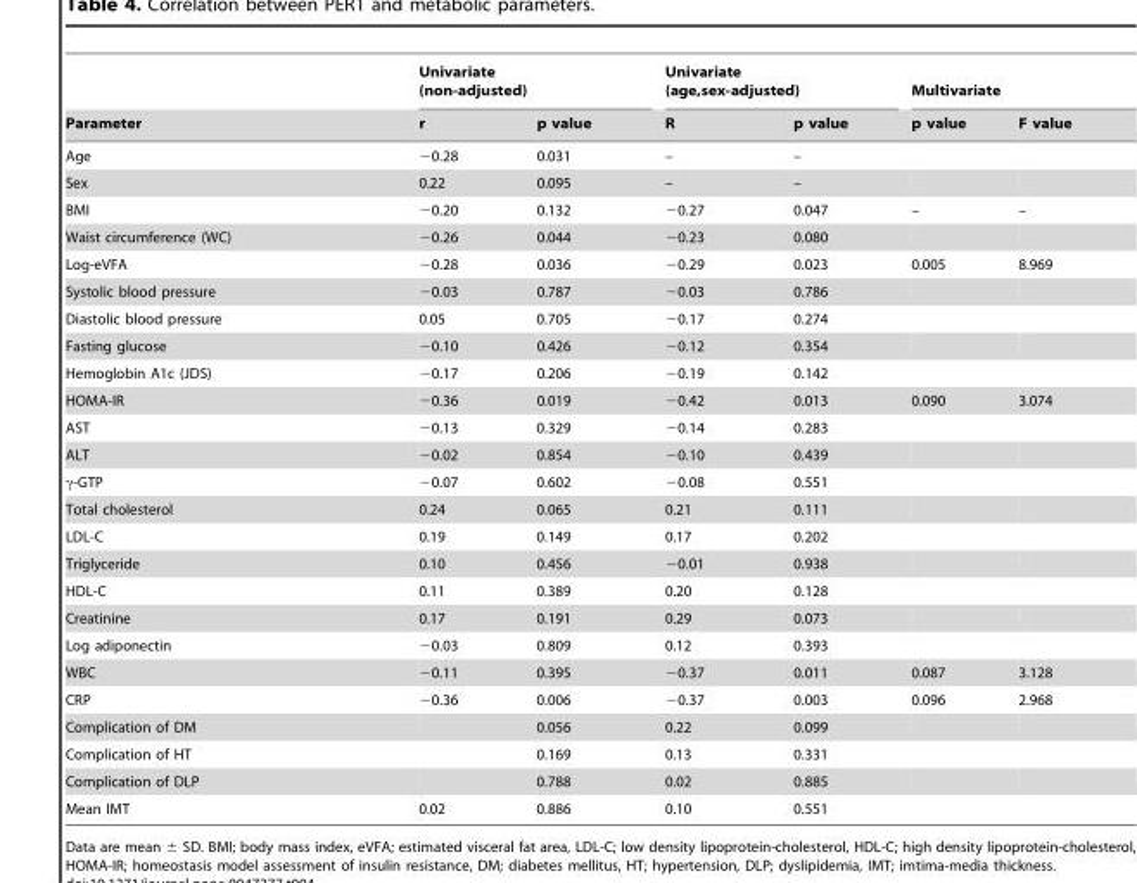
<table><thead><tr><td rowspan="2">Parameter</td><td colspan="2">Univariate (non-adjusted)</td><td colspan="2">Univariate (age,sex-adjusted)</td><td colspan="2">Multivariate</td></tr><tr><td>r</td><td>p value</td><td>R</td><td>p value</td><td>p value</td><td>F value</td></tr></thead><tbody><tr><td>Age</td><td>−0.28</td><td>0.031</td><td>–</td><td>–</td><td></td><td></td></tr><tr><td>Sex</td><td>0.22</td><td>0.095</td><td>–</td><td>–</td><td></td><td></td></tr><tr><td>BMI</td><td>−0.20</td><td>0.132</td><td>−0.27</td><td>0.047</td><td>–</td><td>–</td></tr><tr><td>Waist circumference (WC)</td><td>−0.26</td><td>0.044</td><td>−0.23</td><td>0.080</td><td></td><td></td></tr><tr><td>Log-eVFA</td><td>−0.28</td><td>0.036</td><td>−0.29</td><td>0.023</td><td>0.005</td><td>8.969</td></tr><tr><td>Systolic blood pressure</td><td>−0.03</td><td>0.787</td><td>−0.03</td><td>0.786</td><td></td><td></td></tr><tr><td>Diastolic blood pressure</td><td>0.05</td><td>0.705</td><td>−0.17</td><td>0.274</td><td></td><td></td></tr><tr><td>Fasting glucose</td><td>−0.10</td><td>0.426</td><td>−0.12</td><td>0.354</td><td></td><td></td></tr><tr><td>Hemoglobin A1c (JDS)</td><td>−0.17</td><td>0.206</td><td>−0.19</td><td>0.142</td><td></td><td></td></tr><tr><td>HOMA-IR</td><td>−0.36</td><td>0.019</td><td>−0.42</td><td>0.013</td><td>0.090</td><td>3.074</td></tr><tr><td>AST</td><td>−0.13</td><td>0.329</td><td>−0.14</td><td>0.283</td><td></td><td></td></tr><tr><td>ALT</td><td>−0.02</td><td>0.854</td><td>−0.10</td><td>0.439</td><td></td><td></td></tr><tr><td>γ-GTP</td><td>−0.07</td><td>0.602</td><td>−0.08</td><td>0.551</td><td></td><td></td></tr><tr><td>Total cholesterol</td><td>0.24</td><td>0.065</td><td>0.21</td><td>0.111</td><td></td><td></td></tr><tr><td>LDL-C</td><td>0.19</td><td>0.149</td><td>0.17</td><td>0.202</td><td></td><td></td></tr><tr><td>Triglyceride</td><td>0.10</td><td>0.456</td><td>−0.01</td><td>0.938</td><td></td><td></td></tr><tr><td>HDL-C</td><td>0.11</td><td>0.389</td><td>0.20</td><td>0.128</td><td></td><td></td></tr><tr><td>Creatinine</td><td>0.17</td><td>0.191</td><td>0.29</td><td>0.073</td><td></td><td></td></tr><tr><td>Log adiponectin</td><td>−0.03</td><td>0.809</td><td>0.12</td><td>0.393</td><td></td><td></td></tr><tr><td>WBC</td><td>−0.11</td><td>0.395</td><td>−0.37</td><td>0.011</td><td>0.087</td><td>3.128</td></tr><tr><td>CRP</td><td>−0.36</td><td>0.006</td><td>−0.37</td><td>0.003</td><td>0.096</td><td>2.968</td></tr><tr><td>Complication of DM</td><td></td><td>0.056</td><td>0.22</td><td>0.099</td><td></td><td></td></tr><tr><td>Complication of HT</td><td></td><td>0.169</td><td>0.13</td><td>0.331</td><td></td><td></td></tr><tr><td>Complication of DLP</td><td></td><td>0.788</td><td>0.02</td><td>0.885</td><td></td><td></td></tr><tr><td>Mean IMT</td><td>0.02</td><td>0.886</td><td>0.10</td><td>0.551</td><td></td><td></td></tr></tbody></table>